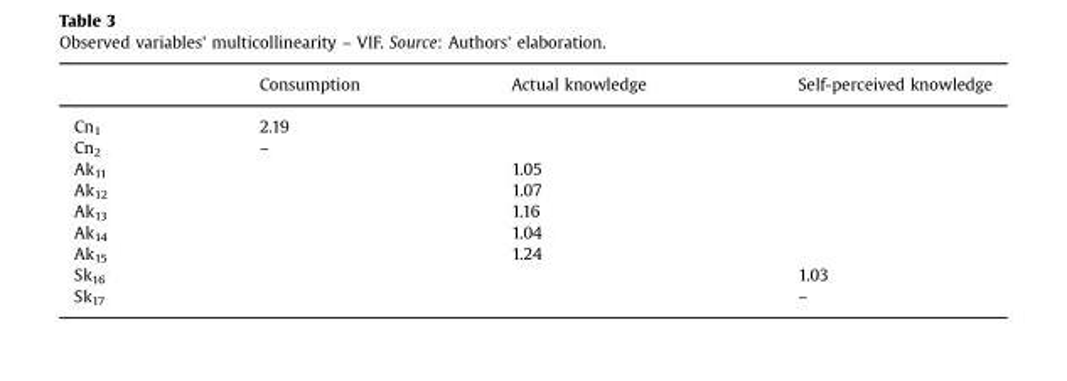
<table><thead><tr><td></td><td>Consumption</td><td>Actual knowledge</td><td>Self-perceived knowledge</td></tr></thead><tbody><tr><td>Cn<sub>1</sub></td><td>2.19</td><td></td><td></td></tr><tr><td>Cn<sub>2</sub></td><td>–</td><td></td><td></td></tr><tr><td>Ak<sub>11</sub></td><td></td><td>1.05</td><td></td></tr><tr><td>Ak<sub>12</sub></td><td></td><td>1.07</td><td></td></tr><tr><td>Ak<sub>13</sub></td><td></td><td>1.16</td><td></td></tr><tr><td>Ak<sub>14</sub></td><td></td><td>1.04</td><td></td></tr><tr><td>Ak<sub>15</sub></td><td></td><td>1.24</td><td></td></tr><tr><td>Sk<sub>16</sub></td><td></td><td></td><td>1.03</td></tr><tr><td>Sk<sub>17</sub></td><td></td><td></td><td>–</td></tr></tbody></table>